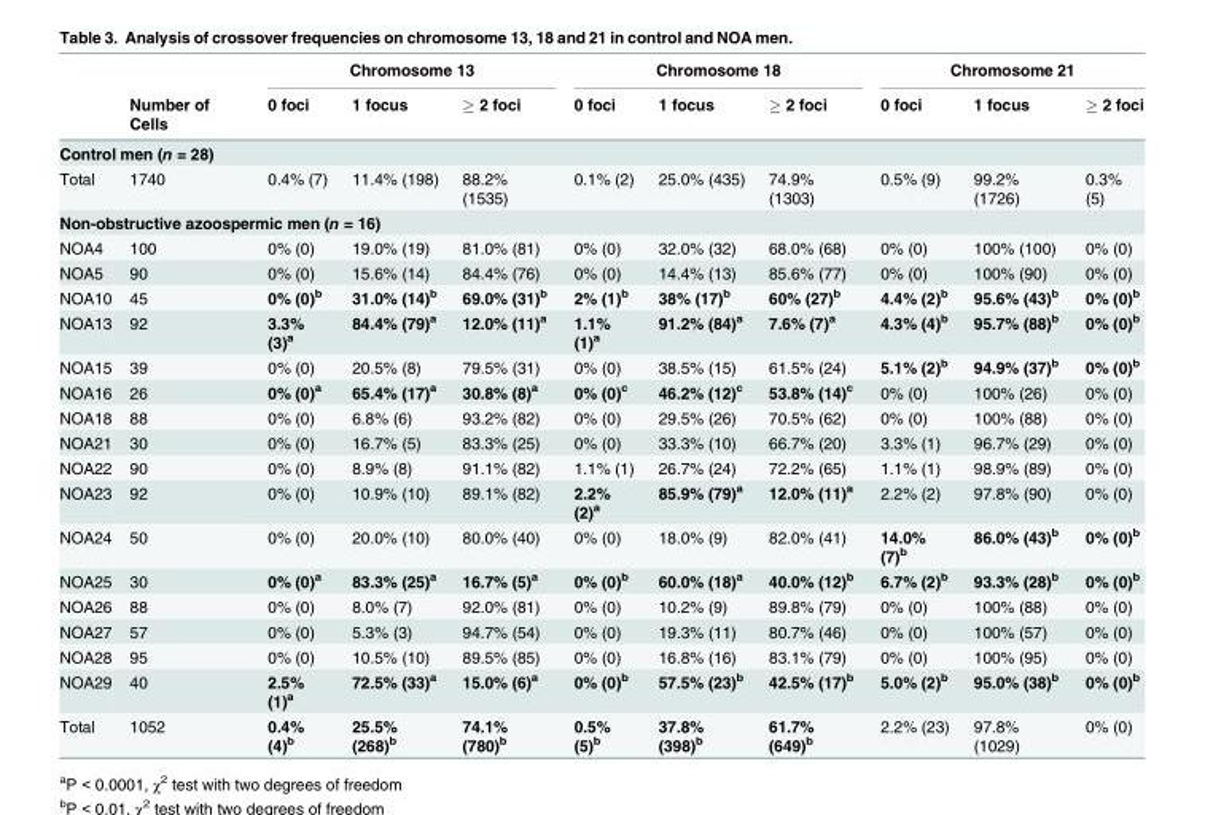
<table><thead><tr><td rowspan="2"></td><td rowspan="2">Number of Cells</td><td colspan="3">Chromosome 13</td><td colspan="3">Chromosome 18</td><td colspan="3">Chromosome 21</td></tr><tr><td>0 foci</td><td>1 focus</td><td>≥ 2 foci</td><td>0 foci</td><td>1 focus</td><td>≥ 2 foci</td><td>0 foci</td><td>1 focus</td><td>≥ 2 foci</td></tr></thead><tbody><tr><td colspan="11">Control men (n = 28)</td></tr><tr><td>Total</td><td>1740</td><td>0.4% (7)</td><td>11.4% (198)</td><td>88.2% (1535)</td><td>0.1% (2)</td><td>25.0% (435)</td><td>74.9% (1303)</td><td>0.5% (9)</td><td>99.2% (1726)</td><td>0.3% (5)</td></tr><tr><td colspan="11">Non-obstructive azoospermic men (n = 16)</td></tr><tr><td>NOA4</td><td>100</td><td>0% (0)</td><td>19.0% (19)</td><td>81.0% (81)</td><td>0% (0)</td><td>32.0% (32)</td><td>68.0% (68)</td><td>0% (0)</td><td>100% (100)</td><td>0% (0)</td></tr><tr><td>NOA5</td><td>90</td><td>0% (0)</td><td>15.6% (14)</td><td>84.4% (76)</td><td>0% (0)</td><td>14.4% (13)</td><td>85.6% (77)</td><td>0% (0)</td><td>100% (90)</td><td>0% (0)</td></tr><tr><td>NOA10</td><td>45</td><td>0% (0)<sup>b</sup></td><td>31.0% (14)<sup>b</sup></td><td>69.0% (31)<sup>b</sup></td><td>2% (1)<sup>b</sup></td><td>38% (17)<sup>b</sup></td><td>60% (27)<sup>b</sup></td><td>4.4% (2)<sup>b</sup></td><td>95.6% (43)<sup>b</sup></td><td>0% (0)<sup>b</sup></td></tr><tr><td>NOA13</td><td>92</td><td>3.3% (3)<sup>a</sup></td><td>84.4% (79)<sup>a</sup></td><td>12.0% (11)<sup>a</sup></td><td>1.1% (1)<sup>a</sup></td><td>91.2% (84)<sup>a</sup></td><td>7.6% (7)<sup>a</sup></td><td>4.3% (4)<sup>b</sup></td><td>95.7% (88)<sup>b</sup></td><td>0% (0)<sup>b</sup></td></tr><tr><td>NOA15</td><td>39</td><td>0% (0)</td><td>20.5% (8)</td><td>79.5% (31)</td><td>0% (0)</td><td>38.5% (15)</td><td>61.5% (24)</td><td>5.1% (2)<sup>b</sup></td><td>94.9% (37)<sup>b</sup></td><td>0% (0)<sup>b</sup></td></tr><tr><td>NOA16</td><td>26</td><td>0% (0)<sup>a</sup></td><td>65.4% (17)<sup>a</sup></td><td>30.8% (8)<sup>a</sup></td><td>0% (0)<sup>c</sup></td><td>46.2% (12)<sup>c</sup></td><td>53.8% (14)<sup>c</sup></td><td>0% (0)</td><td>100% (26)</td><td>0% (0)</td></tr><tr><td>NOA18</td><td>88</td><td>0% (0)</td><td>6.8% (6)</td><td>93.2% (82)</td><td>0% (0)</td><td>29.5% (26)</td><td>70.5% (62)</td><td>0% (0)</td><td>100% (88)</td><td>0% (0)</td></tr><tr><td>NOA21</td><td>30</td><td>0% (0)</td><td>16.7% (5)</td><td>83.3% (25)</td><td>0% (0)</td><td>33.3% (10)</td><td>66.7% (20)</td><td>3.3% (1)</td><td>96.7% (29)</td><td>0% (0)</td></tr><tr><td>NOA22</td><td>90</td><td>0% (0)</td><td>8.9% (8)</td><td>91.1% (82)</td><td>1.1% (1)</td><td>26.7% (24)</td><td>72.2% (65)</td><td>1.1% (1)</td><td>98.9% (89)</td><td>0% (0)</td></tr><tr><td>NOA23</td><td>92</td><td>0% (0)</td><td>10.9% (10)</td><td>89.1% (82)</td><td>2.2% (2)<sup>a</sup></td><td>85.9% (79)<sup>a</sup></td><td>12.0% (11)<sup>a</sup></td><td>2.2% (2)</td><td>97.8% (90)</td><td>0% (0)</td></tr><tr><td>NOA24</td><td>50</td><td>0% (0)</td><td>20.0% (10)</td><td>80.0% (40)</td><td>0% (0)</td><td>18.0% (9)</td><td>82.0% (41)</td><td>14.0% (7)<sup>b</sup></td><td>86.0% (43)<sup>b</sup></td><td>0% (0)<sup>b</sup></td></tr><tr><td>NOA25</td><td>30</td><td>0% (0)<sup>a</sup></td><td>83.3% (25)<sup>a</sup></td><td>16.7% (5)<sup>a</sup></td><td>0% (0)<sup>b</sup></td><td>60.0% (18)<sup>a</sup></td><td>40.0% (12)<sup>b</sup></td><td>6.7% (2)<sup>b</sup></td><td>93.3% (28)<sup>b</sup></td><td>0% (0)<sup>b</sup></td></tr><tr><td>NOA26</td><td>88</td><td>0% (0)</td><td>8.0% (7)</td><td>92.0% (81)</td><td>0% (0)</td><td>10.2% (9)</td><td>89.8% (79)</td><td>0% (0)</td><td>100% (88)</td><td>0% (0)</td></tr><tr><td>NOA27</td><td>57</td><td>0% (0)</td><td>5.3% (3)</td><td>94.7% (54)</td><td>0% (0)</td><td>19.3% (11)</td><td>80.7% (46)</td><td>0% (0)</td><td>100% (57)</td><td>0% (0)</td></tr><tr><td>NOA28</td><td>95</td><td>0% (0)</td><td>10.5% (10)</td><td>89.5% (85)</td><td>0% (0)</td><td>16.8% (16)</td><td>83.1% (79)</td><td>0% (0)</td><td>100% (95)</td><td>0% (0)</td></tr><tr><td>NOA29</td><td>40</td><td>2.5% (1)<sup>a</sup></td><td>72.5% (33)<sup>a</sup></td><td>15.0% (6)<sup>a</sup></td><td>0% (0)<sup>b</sup></td><td>57.5% (23)<sup>b</sup></td><td>42.5% (17)<sup>b</sup></td><td>5.0% (2)<sup>b</sup></td><td>95.0% (38)<sup>b</sup></td><td>0% (0)<sup>b</sup></td></tr><tr><td>Total</td><td>1052</td><td>0.4% (4)<sup>b</sup></td><td>25.5% (268)<sup>b</sup></td><td>74.1% (780)<sup>b</sup></td><td>0.5% (5)<sup>b</sup></td><td>37.8% (398)<sup>b</sup></td><td>61.7% (649)<sup>b</sup></td><td>2.2% (23)</td><td>97.8% (1029)</td><td>0% (0)</td></tr></tbody></table>